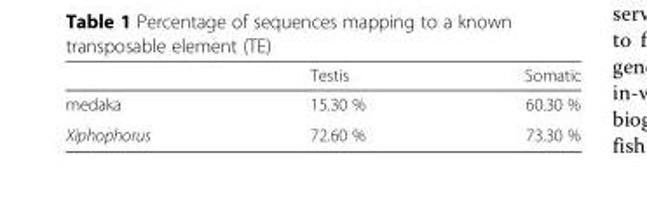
<table><thead><tr><td></td><td>Testis</td><td>Somatic</td></tr></thead><tbody><tr><td>medaka</td><td>15.30 %</td><td>60.30 %</td></tr><tr><td>Xiphophorus</td><td>72.60 %</td><td>73.30 %</td></tr></tbody></table>